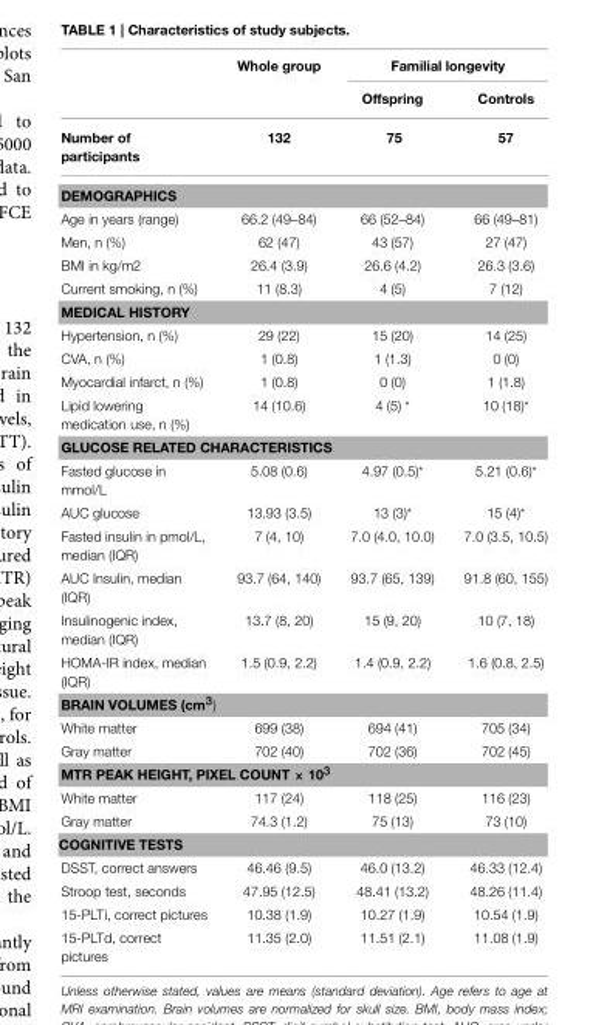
<table><thead><tr><td rowspan="2"></td><td rowspan="2">Whole group</td><td colspan="2">Familial longevity</td></tr><tr><td>Offspring</td><td>Controls</td></tr></thead><tbody><tr><td>Number of participants</td><td>132</td><td>75</td><td>57</td></tr><tr><td colspan="4">DEMOGRAPHICS</td></tr><tr><td>Age in years (range)</td><td>66.2 (49–84)</td><td>66 (52–84)</td><td>66 (49–81)</td></tr><tr><td>Men, n (%)</td><td>62 (47)</td><td>43 (57)</td><td>27 (47)</td></tr><tr><td>BMI in kg/m2</td><td>26.4 (3.9)</td><td>26.6 (4.2)</td><td>26.3 (3.6)</td></tr><tr><td>Current smoking, n (%)</td><td>11 (8.3)</td><td>4 (5)</td><td>7 (12)</td></tr><tr><td colspan="4">MEDICAL HISTORY</td></tr><tr><td>Hypertension, n (%)</td><td>29 (22)</td><td>15 (20)</td><td>14 (25)</td></tr><tr><td>CVA, n (%)</td><td>1 (0.8)</td><td>1 (1.3)</td><td>0 (0)</td></tr><tr><td>Myocardial infarct, n (%)</td><td>1 (0.8)</td><td>0 (0)</td><td>1 (1.8)</td></tr><tr><td>Lipid lowering medication use, n (%)</td><td>14 (10.6)</td><td>4 (5) *</td><td>10 (18)*</td></tr><tr><td colspan="4">GLUCOSE RELATED CHARACTERISTICS</td></tr><tr><td>Fasted glucose in mmol/L</td><td>5.08 (0.6)</td><td>4.97 (0.5)*</td><td>5.21 (0.6)*</td></tr><tr><td>AUC glucose</td><td>13.93 (3.5)</td><td>13 (3)*</td><td>15 (4)*</td></tr><tr><td>Fasted insulin in pmol/L, median (IQR)</td><td>7 (4, 10)</td><td>7.0 (4.0, 10.0)</td><td>7.0 (3.5, 10.5)</td></tr><tr><td>AUC Insulin, median (IQR)</td><td>93.7 (64, 140)</td><td>93.7 (65, 139)</td><td>91.8 (60, 155)</td></tr><tr><td>Insulinogenic index, median (IQR)</td><td>13.7 (8, 20)</td><td>15 (9, 20)</td><td>10 (7, 18)</td></tr><tr><td>HOMA-IR index, median (IQR)</td><td>1.5 (0.9, 2.2)</td><td>1.4 (0.9, 2.2)</td><td>1.6 (0.8, 2.5)</td></tr><tr><td colspan="4">BRAIN VOLUMES (cm<sup>3</sup>)</td></tr><tr><td>White matter</td><td>699 (38)</td><td>694 (41)</td><td>705 (34)</td></tr><tr><td>Gray matter</td><td>702 (40)</td><td>702 (36)</td><td>702 (45)</td></tr><tr><td colspan="4">MTR PEAK HEIGHT, PIXEL COUNT × 10<sup>3</sup></td></tr><tr><td>White matter</td><td>117 (24)</td><td>118 (25)</td><td>116 (23)</td></tr><tr><td>Gray matter</td><td>74.3 (1.2)</td><td>75 (13)</td><td>73 (10)</td></tr><tr><td colspan="4">COGNITIVE TESTS</td></tr><tr><td>DSST, correct answers</td><td>46.46 (9.5)</td><td>46.0 (13.2)</td><td>46.33 (12.4)</td></tr><tr><td>Stroop test, seconds</td><td>47.95 (12.5)</td><td>48.41 (13.2)</td><td>48.26 (11.4)</td></tr><tr><td>15-PLTi, correct pictures</td><td>10.38 (1.9)</td><td>10.27 (1.9)</td><td>10.54 (1.9)</td></tr><tr><td>15-PLTd, correct pictures</td><td>11.35 (2.0)</td><td>11.51 (2.1)</td><td>11.08 (1.9)</td></tr></tbody></table>